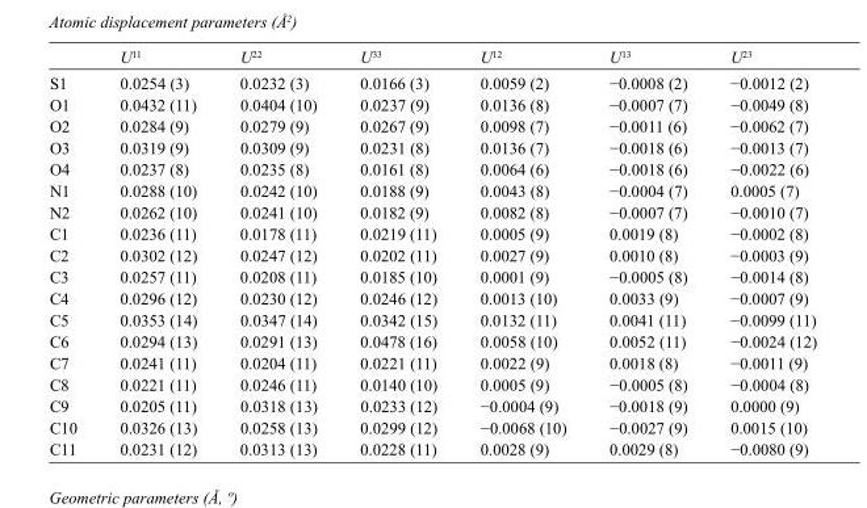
<table><thead><tr><td></td><td>U<sup>11</sup></td><td>U<sup>22</sup></td><td>U<sup>33</sup></td><td>U<sup>12</sup></td><td>U<sup>13</sup></td><td>U<sup>23</sup></td></tr></thead><tbody><tr><td>S1</td><td>0.0254 (3)</td><td>0.0232 (3)</td><td>0.0166 (3)</td><td>0.0059 (2)</td><td>−0.0008 (2)</td><td>−0.0012 (2)</td></tr><tr><td>O1</td><td>0.0432 (11)</td><td>0.0404 (10)</td><td>0.0237 (9)</td><td>0.0136 (8)</td><td>−0.0007 (7)</td><td>−0.0049 (8)</td></tr><tr><td>O2</td><td>0.0284 (9)</td><td>0.0279 (9)</td><td>0.0267 (9)</td><td>0.0098 (7)</td><td>−0.0011 (6)</td><td>−0.0062 (7)</td></tr><tr><td>O3</td><td>0.0319 (9)</td><td>0.0309 (9)</td><td>0.0231 (8)</td><td>0.0136 (7)</td><td>−0.0018 (6)</td><td>−0.0013 (7)</td></tr><tr><td>O4</td><td>0.0237 (8)</td><td>0.0235 (8)</td><td>0.0161 (8)</td><td>0.0064 (6)</td><td>−0.0018 (6)</td><td>−0.0022 (6)</td></tr><tr><td>N1</td><td>0.0288 (10)</td><td>0.0242 (10)</td><td>0.0188 (9)</td><td>0.0043 (8)</td><td>−0.0004 (7)</td><td>0.0005 (7)</td></tr><tr><td>N2</td><td>0.0262 (10)</td><td>0.0241 (10)</td><td>0.0182 (9)</td><td>0.0082 (8)</td><td>−0.0007 (7)</td><td>−0.0010 (7)</td></tr><tr><td>C1</td><td>0.0236 (11)</td><td>0.0178 (11)</td><td>0.0219 (11)</td><td>0.0005 (9)</td><td>0.0019 (8)</td><td>−0.0002 (8)</td></tr><tr><td>C2</td><td>0.0302 (12)</td><td>0.0247 (12)</td><td>0.0202 (11)</td><td>0.0027 (9)</td><td>0.0010 (8)</td><td>−0.0003 (9)</td></tr><tr><td>C3</td><td>0.0257 (11)</td><td>0.0208 (11)</td><td>0.0185 (10)</td><td>0.0001 (9)</td><td>−0.0005 (8)</td><td>−0.0014 (8)</td></tr><tr><td>C4</td><td>0.0296 (12)</td><td>0.0230 (12)</td><td>0.0246 (12)</td><td>0.0013 (10)</td><td>0.0033 (9)</td><td>−0.0007 (9)</td></tr><tr><td>C5</td><td>0.0353 (14)</td><td>0.0347 (14)</td><td>0.0342 (15)</td><td>0.0132 (11)</td><td>0.0041 (11)</td><td>−0.0099 (11)</td></tr><tr><td>C6</td><td>0.0294 (13)</td><td>0.0291 (13)</td><td>0.0478 (16)</td><td>0.0058 (10)</td><td>0.0052 (11)</td><td>−0.0024 (12)</td></tr><tr><td>C7</td><td>0.0241 (11)</td><td>0.0204 (11)</td><td>0.0221 (11)</td><td>0.0022 (9)</td><td>0.0018 (8)</td><td>−0.0011 (9)</td></tr><tr><td>C8</td><td>0.0221 (11)</td><td>0.0246 (11)</td><td>0.0140 (10)</td><td>0.0005 (9)</td><td>−0.0005 (8)</td><td>−0.0004 (8)</td></tr><tr><td>C9</td><td>0.0205 (11)</td><td>0.0318 (13)</td><td>0.0233 (12)</td><td>−0.0004 (9)</td><td>−0.0018 (9)</td><td>0.0000 (9)</td></tr><tr><td>C10</td><td>0.0326 (13)</td><td>0.0258 (13)</td><td>0.0299 (12)</td><td>−0.0068 (10)</td><td>−0.0027 (9)</td><td>0.0015 (10)</td></tr><tr><td>C11</td><td>0.0231 (12)</td><td>0.0313 (13)</td><td>0.0228 (11)</td><td>0.0028 (9)</td><td>0.0029 (8)</td><td>−0.0080 (9)</td></tr></tbody></table>